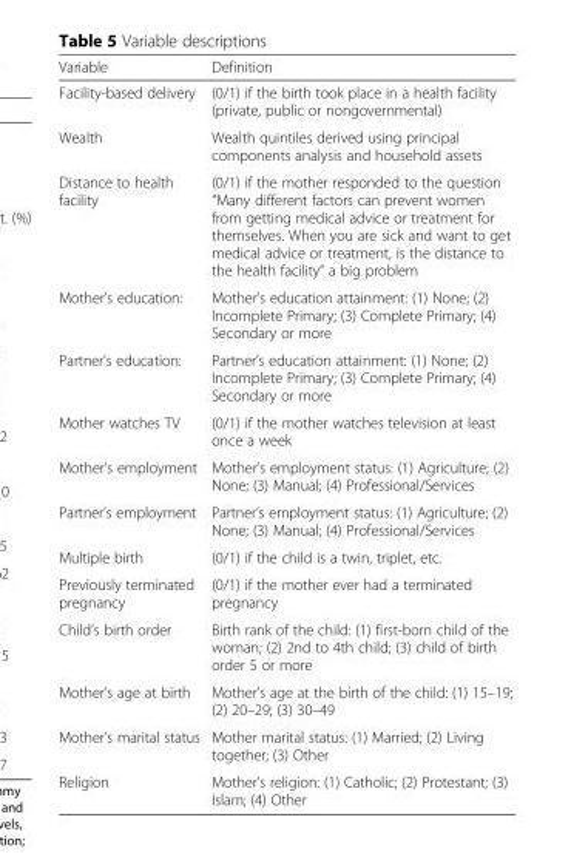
<table><thead><tr><td>Variable</td><td>Definition</td></tr></thead><tbody><tr><td>Facility-based delivery</td><td>(0/1) if the birth took place in a health facility (private, public or nongovernmental)</td></tr><tr><td>Wealth</td><td>Wealth quintiles derived using principal components analysis and household assets</td></tr><tr><td>Distance to health facility</td><td>(0/1) if the mother responded to the question “Many different factors can prevent women from getting medical advice or treatment for themselves. When you are sick and want to get medical advice or treatment, is the distance to the health facility” a big problem</td></tr><tr><td>Mother’s education:</td><td>Mother’s education attainment: (1) None; (2) Incomplete Primary; (3) Complete Primary; (4) Secondary or more</td></tr><tr><td>Partner’s education:</td><td>Partner’s education attainment: (1) None; (2) Incomplete Primary; (3) Complete Primary; (4) Secondary or more</td></tr><tr><td>Mother watches TV</td><td>(0/1) if the mother watches television at least once a week</td></tr><tr><td>Mother’s employment</td><td>Mother’s employment status: (1) Agriculture; (2) None; (3) Manual; (4) Professional/Services</td></tr><tr><td>Partner’s employment</td><td>Partner’s employment status: (1) Agriculture; (2) None; (3) Manual; (4) Professional/Services</td></tr><tr><td>Multiple birth</td><td>(0/1) if the child is a twin, triplet, etc.</td></tr><tr><td>Previously terminated pregnancy</td><td>(0/1) if the mother ever had a terminated pregnancy</td></tr><tr><td>Child’s birth order</td><td>Birth rank of the child: (1) first-born child of the woman; (2) 2nd to 4th child; (3) child of birth order 5 or more</td></tr><tr><td>Mother’s age at birth</td><td>Mother’s age at the birth of the child: (1) 15–19; (2) 20–29; (3) 30–49</td></tr><tr><td>Mother’s marital status</td><td>Mother marital status: (1) Married; (2) Living together; (3) Other</td></tr><tr><td>Religion</td><td>Mother’s religion: (1) Catholic; (2) Protestant; (3) Islam; (4) Other</td></tr></tbody></table>